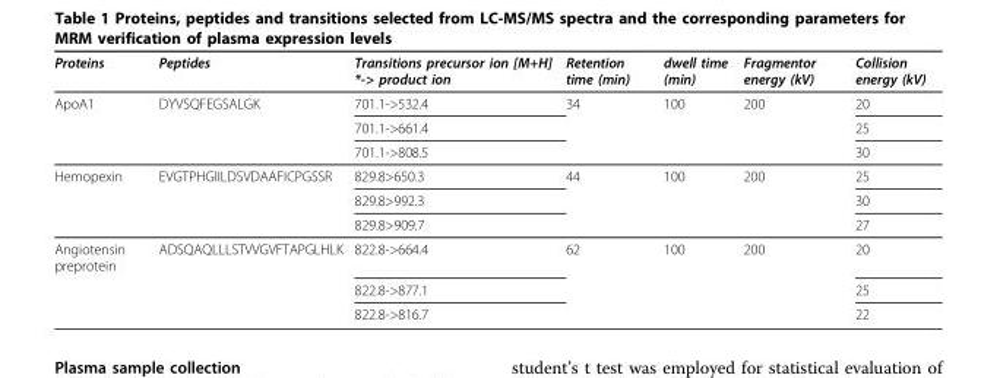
<table><thead><tr><td>Proteins</td><td>Peptides</td><td>Transitions precursor ion [M+H] *-&gt; product ion</td><td>Retention time (min)</td><td>dwell time (min)</td><td>Fragmentor energy (kV)</td><td>Collision energy (kV)</td></tr></thead><tbody><tr><td rowspan="3">ApoA1</td><td>DYVSQFEGSALGK</td><td>701.1-&gt;532.4</td><td>34</td><td>100</td><td>200</td><td>20</td></tr><tr><td></td><td>701.1-&gt;661.4</td><td></td><td></td><td></td><td>25</td></tr><tr><td></td><td>701.1-&gt;808.5</td><td></td><td></td><td></td><td>30</td></tr><tr><td rowspan="3">Hemopexin</td><td>EVGTPHGIILDSVDAAFICPGSSR</td><td>829.8&gt;650.3</td><td>44</td><td>100</td><td>200</td><td>25</td></tr><tr><td></td><td>829.8&gt;992.3</td><td></td><td></td><td></td><td>30</td></tr><tr><td></td><td>829.8&gt;909.7</td><td></td><td></td><td></td><td>27</td></tr><tr><td rowspan="3">Angiotensin preprotein</td><td>ADSQAQLLLSTVVGVFTAPGLHLK</td><td>822.8-&gt;664.4</td><td>62</td><td>100</td><td>200</td><td>20</td></tr><tr><td></td><td>822.8-&gt;877.1</td><td></td><td></td><td></td><td>25</td></tr><tr><td></td><td>822.8-&gt;816.7</td><td></td><td></td><td></td><td>22</td></tr></tbody></table>